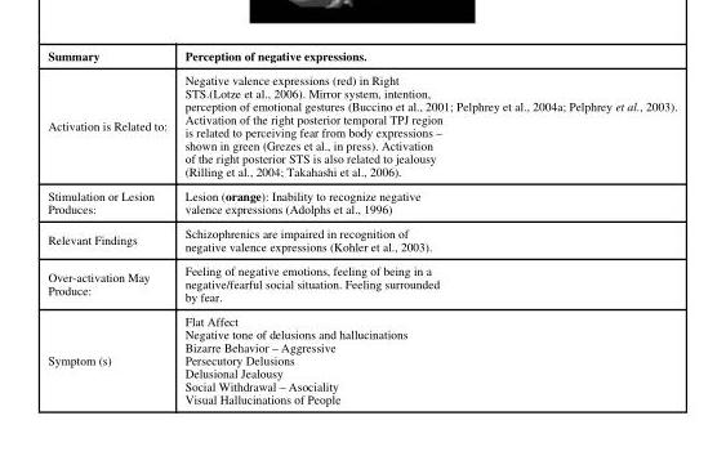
<table><thead><tr><td>Summary</td><td>Perception of negative expressions.</td></tr></thead><tbody><tr><td>Activation is Related to:</td><td>Negative valence expressions (red) in Right STS.(Lotze et al., 2006). Mirror system, intention, perception of emotional gestures (Buccino et al., 2001; Pelphrey et al., 2004a; Pelphrey et al., 2003). Activation of the right posterior temporal TPJ region is related to perceiving fear from body expressions – shown in green (Grezes et al., in press). Activation of the right posterior STS is also related to jealousy (Rilling et al., 2004; Takahashi et al., 2006).</td></tr><tr><td>Stimulation or Lesion Produces:</td><td>Lesion (orange): Inability to recognize negative valence expressions (Adolphs et al., 1996)</td></tr><tr><td>Relevant Findings</td><td>Schizophrenics are impaired in recognition of negative valence expressions (Kohler et al., 2003).</td></tr><tr><td>Over-activation May Produce:</td><td>Feeling of negative emotions, feeling of being in a negative/fearful social situation. Feeling surrounded by fear.</td></tr><tr><td>Symptom (s)</td><td>Flat Affect Negative tone of delusions and hallucinations Bizarre Behavior – Aggressive Persecutory Delusions Delusional Jealousy Social Withdrawal – Asociality Visual Hallucinations of People</td></tr></tbody></table>